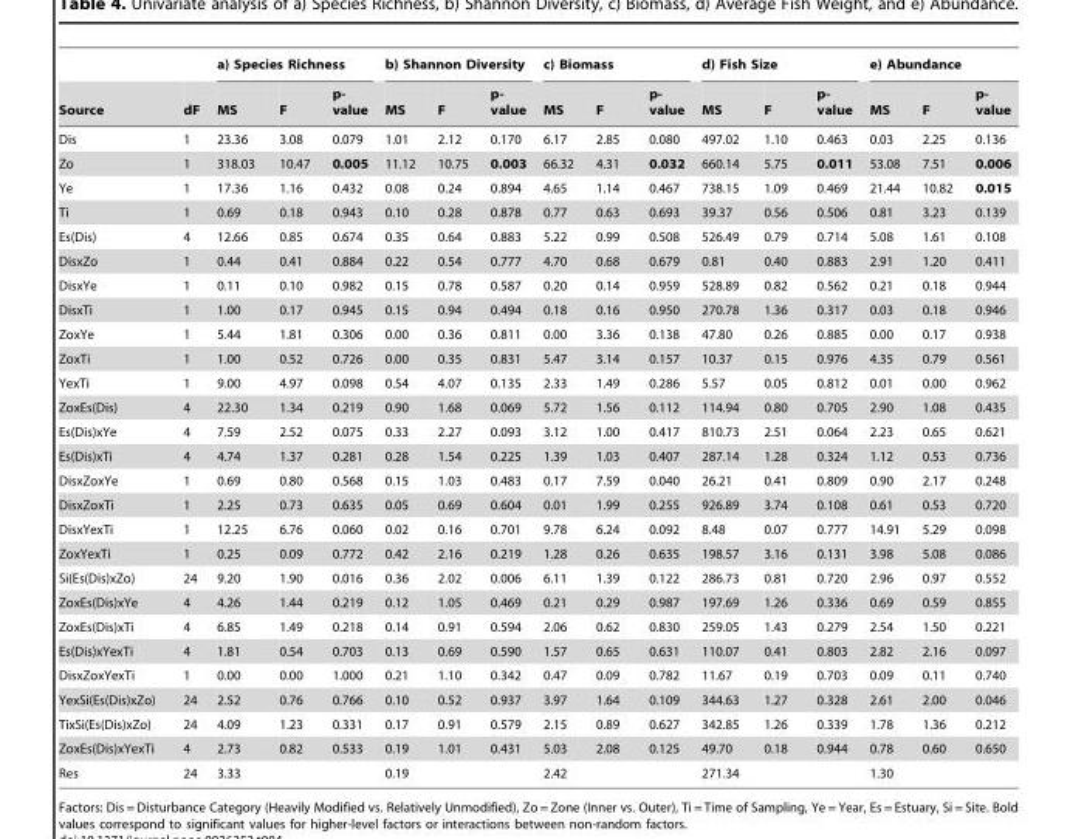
<table><thead><tr><td rowspan="2">Source</td><td rowspan="2">dF</td><td colspan="3">a) Species Richness</td><td colspan="3">b) Shannon Diversity</td><td colspan="3">c) Biomass</td><td colspan="3">d) Fish Size</td><td colspan="3">e) Abundance</td></tr><tr><td>MS</td><td>F</td><td>p- value</td><td>MS</td><td>F</td><td>p- value</td><td>MS</td><td>F</td><td>p- value</td><td>MS</td><td>F</td><td>p- value</td><td>MS</td><td>F</td><td>p- value</td></tr></thead><tbody><tr><td>Dis</td><td>1</td><td>23.36</td><td>3.08</td><td>0.079</td><td>1.01</td><td>2.12</td><td>0.170</td><td>6.17</td><td>2.85</td><td>0.080</td><td>497.02</td><td>1.10</td><td>0.463</td><td>0.03</td><td>2.25</td><td>0.136</td></tr><tr><td>Zo</td><td>1</td><td>318.03</td><td>10.47</td><td>0.005</td><td>11.12</td><td>10.75</td><td>0.003</td><td>66.32</td><td>4.31</td><td>0.032</td><td>660.14</td><td>5.75</td><td>0.011</td><td>53.08</td><td>7.51</td><td>0.006</td></tr><tr><td>Ye</td><td>1</td><td>17.36</td><td>1.16</td><td>0.432</td><td>0.08</td><td>0.24</td><td>0.894</td><td>4.65</td><td>1.14</td><td>0.467</td><td>738.15</td><td>1.09</td><td>0.469</td><td>21.44</td><td>10.82</td><td>0.015</td></tr><tr><td>Ti</td><td>1</td><td>0.69</td><td>0.18</td><td>0.943</td><td>0.10</td><td>0.28</td><td>0.878</td><td>0.77</td><td>0.63</td><td>0.693</td><td>39.37</td><td>0.56</td><td>0.506</td><td>0.81</td><td>3.23</td><td>0.139</td></tr><tr><td>Es(Dis)</td><td>4</td><td>12.66</td><td>0.85</td><td>0.674</td><td>0.35</td><td>0.64</td><td>0.883</td><td>5.22</td><td>0.99</td><td>0.508</td><td>526.49</td><td>0.79</td><td>0.714</td><td>5.08</td><td>1.61</td><td>0.108</td></tr><tr><td>DisxZo</td><td>1</td><td>0.44</td><td>0.41</td><td>0.884</td><td>0.22</td><td>0.54</td><td>0.777</td><td>4.70</td><td>0.68</td><td>0.679</td><td>0.81</td><td>0.40</td><td>0.883</td><td>2.91</td><td>1.20</td><td>0.411</td></tr><tr><td>DisxYe</td><td>1</td><td>0.11</td><td>0.10</td><td>0.982</td><td>0.15</td><td>0.78</td><td>0.587</td><td>0.20</td><td>0.14</td><td>0.959</td><td>528.89</td><td>0.82</td><td>0.562</td><td>0.21</td><td>0.18</td><td>0.944</td></tr><tr><td>DisxTi</td><td>1</td><td>1.00</td><td>0.17</td><td>0.945</td><td>0.15</td><td>0.94</td><td>0.494</td><td>0.18</td><td>0.16</td><td>0.950</td><td>270.78</td><td>1.36</td><td>0.317</td><td>0.03</td><td>0.18</td><td>0.946</td></tr><tr><td>ZoxYe</td><td>1</td><td>5.44</td><td>1.81</td><td>0.306</td><td>0.00</td><td>0.36</td><td>0.811</td><td>0.00</td><td>3.36</td><td>0.138</td><td>47.80</td><td>0.26</td><td>0.885</td><td>0.00</td><td>0.17</td><td>0.938</td></tr><tr><td>ZoxTi</td><td>1</td><td>1.00</td><td>0.52</td><td>0.726</td><td>0.00</td><td>0.35</td><td>0.831</td><td>5.47</td><td>3.14</td><td>0.157</td><td>10.37</td><td>0.15</td><td>0.976</td><td>4.35</td><td>0.79</td><td>0.561</td></tr><tr><td>YexTi</td><td>1</td><td>9.00</td><td>4.97</td><td>0.098</td><td>0.54</td><td>4.07</td><td>0.135</td><td>2.33</td><td>1.49</td><td>0.286</td><td>5.57</td><td>0.05</td><td>0.812</td><td>0.01</td><td>0.00</td><td>0.962</td></tr><tr><td>ZoxEs(Dis)</td><td>4</td><td>22.30</td><td>1.34</td><td>0.219</td><td>0.90</td><td>1.68</td><td>0.069</td><td>5.72</td><td>1.56</td><td>0.112</td><td>114.94</td><td>0.80</td><td>0.705</td><td>2.90</td><td>1.08</td><td>0.435</td></tr><tr><td>Es(Dis)xYe</td><td>4</td><td>7.59</td><td>2.52</td><td>0.075</td><td>0.33</td><td>2.27</td><td>0.093</td><td>3.12</td><td>1.00</td><td>0.417</td><td>810.73</td><td>2.51</td><td>0.064</td><td>2.23</td><td>0.65</td><td>0.621</td></tr><tr><td>Es(Dis)xTi</td><td>4</td><td>4.74</td><td>1.37</td><td>0.281</td><td>0.28</td><td>1.54</td><td>0.225</td><td>1.39</td><td>1.03</td><td>0.407</td><td>287.14</td><td>1.28</td><td>0.324</td><td>1.12</td><td>0.53</td><td>0.736</td></tr><tr><td>DisxZoxYe</td><td>1</td><td>0.69</td><td>0.80</td><td>0.568</td><td>0.15</td><td>1.03</td><td>0.483</td><td>0.17</td><td>7.59</td><td>0.040</td><td>26.21</td><td>0.41</td><td>0.809</td><td>0.90</td><td>2.17</td><td>0.248</td></tr><tr><td>DisxZoxTi</td><td>1</td><td>2.25</td><td>0.73</td><td>0.635</td><td>0.05</td><td>0.69</td><td>0.604</td><td>0.01</td><td>1.99</td><td>0.255</td><td>926.89</td><td>3.74</td><td>0.108</td><td>0.61</td><td>0.53</td><td>0.720</td></tr><tr><td>DisxYexTi</td><td>1</td><td>12.25</td><td>6.76</td><td>0.060</td><td>0.02</td><td>0.16</td><td>0.701</td><td>9.78</td><td>6.24</td><td>0.092</td><td>8.48</td><td>0.07</td><td>0.777</td><td>14.91</td><td>5.29</td><td>0.098</td></tr><tr><td>ZoxYexTi</td><td>1</td><td>0.25</td><td>0.09</td><td>0.772</td><td>0.42</td><td>2.16</td><td>0.219</td><td>1.28</td><td>0.26</td><td>0.635</td><td>198.57</td><td>3.16</td><td>0.131</td><td>3.98</td><td>5.08</td><td>0.086</td></tr><tr><td>Si(Es(Dis)xZo)</td><td>24</td><td>9.20</td><td>1.90</td><td>0.016</td><td>0.36</td><td>2.02</td><td>0.006</td><td>6.11</td><td>1.39</td><td>0.122</td><td>286.73</td><td>0.81</td><td>0.720</td><td>2.96</td><td>0.97</td><td>0.552</td></tr><tr><td>ZoxEs(Dis)xYe</td><td>4</td><td>4.26</td><td>1.44</td><td>0.219</td><td>0.12</td><td>1.05</td><td>0.469</td><td>0.21</td><td>0.29</td><td>0.987</td><td>197.69</td><td>1.26</td><td>0.336</td><td>0.69</td><td>0.59</td><td>0.855</td></tr><tr><td>ZoxEs(Dis)xTi</td><td>4</td><td>6.85</td><td>1.49</td><td>0.218</td><td>0.14</td><td>0.91</td><td>0.594</td><td>2.06</td><td>0.62</td><td>0.830</td><td>259.05</td><td>1.43</td><td>0.279</td><td>2.54</td><td>1.50</td><td>0.221</td></tr><tr><td>Es(Dis)xYexTi</td><td>4</td><td>1.81</td><td>0.54</td><td>0.703</td><td>0.13</td><td>0.69</td><td>0.590</td><td>1.57</td><td>0.65</td><td>0.631</td><td>110.07</td><td>0.41</td><td>0.803</td><td>2.82</td><td>2.16</td><td>0.097</td></tr><tr><td>DisxZoxYexTi</td><td>1</td><td>0.00</td><td>0.00</td><td>1.000</td><td>0.21</td><td>1.10</td><td>0.342</td><td>0.47</td><td>0.09</td><td>0.782</td><td>11.67</td><td>0.19</td><td>0.703</td><td>0.09</td><td>0.11</td><td>0.740</td></tr><tr><td>YexSi(Es(Dis)xZo)</td><td>24</td><td>2.52</td><td>0.76</td><td>0.766</td><td>0.10</td><td>0.52</td><td>0.937</td><td>3.97</td><td>1.64</td><td>0.109</td><td>344.63</td><td>1.27</td><td>0.328</td><td>2.61</td><td>2.00</td><td>0.046</td></tr><tr><td>TixSi(Es(Dis)xZo)</td><td>24</td><td>4.09</td><td>1.23</td><td>0.331</td><td>0.17</td><td>0.91</td><td>0.579</td><td>2.15</td><td>0.89</td><td>0.627</td><td>342.85</td><td>1.26</td><td>0.339</td><td>1.78</td><td>1.36</td><td>0.212</td></tr><tr><td>ZoxEs(Dis)xYexTi</td><td>4</td><td>2.73</td><td>0.82</td><td>0.533</td><td>0.19</td><td>1.01</td><td>0.431</td><td>5.03</td><td>2.08</td><td>0.125</td><td>49.70</td><td>0.18</td><td>0.944</td><td>0.78</td><td>0.60</td><td>0.650</td></tr><tr><td>Res</td><td>24</td><td>3.33</td><td></td><td></td><td>0.19</td><td></td><td></td><td>2.42</td><td></td><td></td><td>271.34</td><td></td><td></td><td>1.30</td><td></td><td></td></tr></tbody></table>